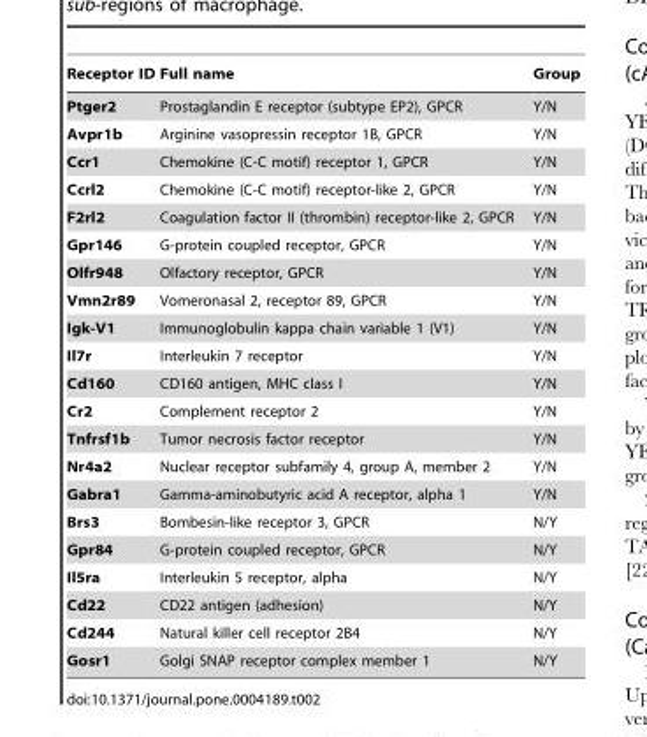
<table><thead><tr><td>Receptor ID</td><td>Full name</td><td>Group</td></tr></thead><tbody><tr><td>Ptger2</td><td>Prostaglandin E receptor (subtype EP2), GPCR</td><td>Y/N</td></tr><tr><td>Avpr1b</td><td>Arginine vasopressin receptor 1B, GPCR</td><td>Y/N</td></tr><tr><td>Ccr1</td><td>Chemokine (C-C motif) receptor 1, GPCR</td><td>Y/N</td></tr><tr><td>Ccrl2</td><td>Chemokine (C-C motif) receptor-like 2, GPCR</td><td>Y/N</td></tr><tr><td>F2rl2</td><td>Coagulation factor II (thrombin) receptor-like 2, GPCR</td><td>Y/N</td></tr><tr><td>Gpr146</td><td>G-protein coupled receptor, GPCR</td><td>Y/N</td></tr><tr><td>Olfr948</td><td>Olfactory receptor, GPCR</td><td>Y/N</td></tr><tr><td>Vmn2r89</td><td>Vomeronasal 2, receptor 89, GPCR</td><td>Y/N</td></tr><tr><td>Igk-V1</td><td>Immunoglobulin kappa chain variable 1 (V1)</td><td>Y/N</td></tr><tr><td>Il7r</td><td>Interleukin 7 receptor</td><td>Y/N</td></tr><tr><td>Cd160</td><td>CD160 antigen, MHC class I</td><td>Y/N</td></tr><tr><td>Cr2</td><td>Complement receptor 2</td><td>Y/N</td></tr><tr><td>Tnfrsf1b</td><td>Tumor necrosis factor receptor</td><td>Y/N</td></tr><tr><td>Nr4a2</td><td>Nuclear receptor subfamily 4, group A, member 2</td><td>Y/N</td></tr><tr><td>Gabra1</td><td>Gamma-aminobutyric acid A receptor, alpha 1</td><td>Y/N</td></tr><tr><td>Brs3</td><td>Bombesin-like receptor 3, GPCR</td><td>N/Y</td></tr><tr><td>Gpr84</td><td>G-protein coupled receptor, GPCR</td><td>N/Y</td></tr><tr><td>Il5ra</td><td>Interleukin 5 receptor, alpha</td><td>N/Y</td></tr><tr><td>Cd22</td><td>CD22 antigen (adhesion)</td><td>N/Y</td></tr><tr><td>Cd244</td><td>Natural killer cell receptor 2B4</td><td>N/Y</td></tr><tr><td>Gosr1</td><td>Golgi SNAP receptor complex member 1</td><td>N/Y</td></tr></tbody></table>